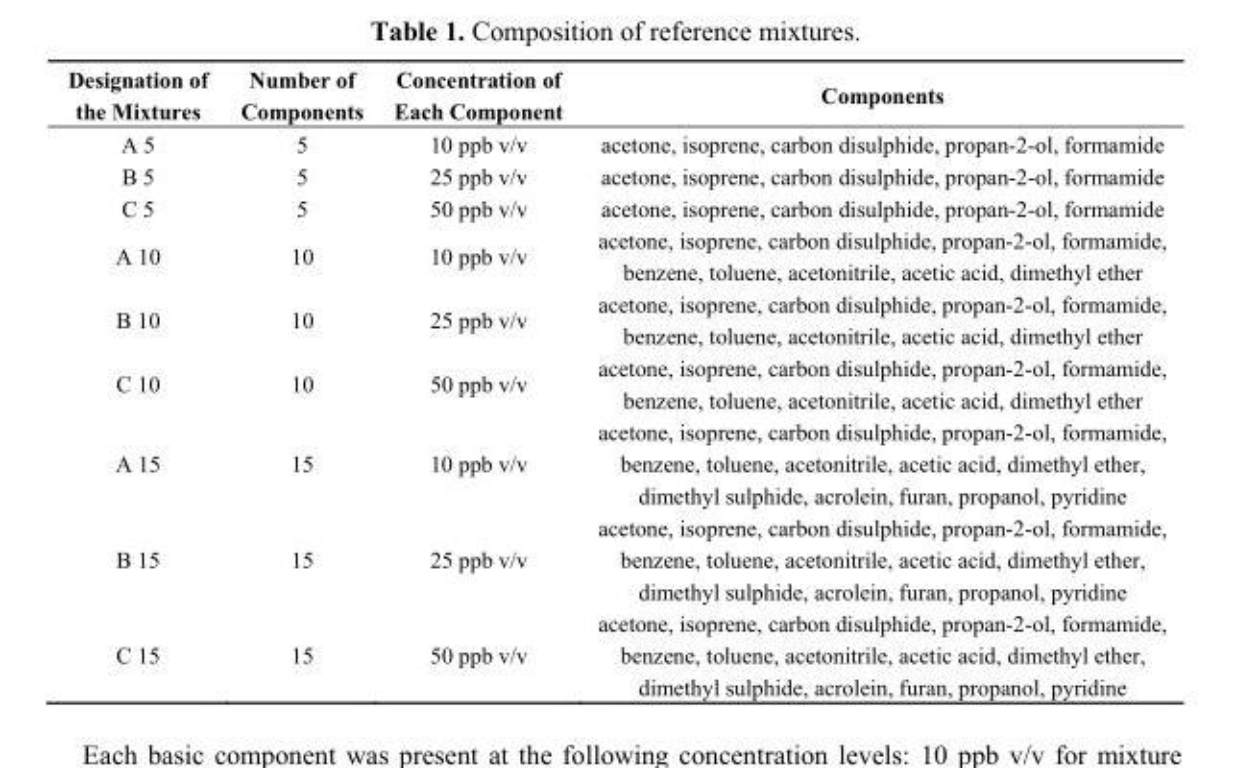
<table><thead><tr><td>Designation of the Mixtures</td><td>Number of Components</td><td>Concentration of Each Component</td><td>Components</td></tr></thead><tbody><tr><td>A 5</td><td>5</td><td>10 ppb v/v</td><td>acetone, isoprene, carbon disulphide, propan-2-ol, formamide</td></tr><tr><td>B 5</td><td>5</td><td>25 ppb v/v</td><td>acetone, isoprene, carbon disulphide, propan-2-ol, formamide</td></tr><tr><td>C 5</td><td>5</td><td>50 ppb v/v</td><td>acetone, isoprene, carbon disulphide, propan-2-ol, formamide</td></tr><tr><td>A 10</td><td>10</td><td>10 ppb v/v</td><td>acetone, isoprene, carbon disulphide, propan-2-ol, formamide, benzene, toluene, acetonitrile, acetic acid, dimethyl ether</td></tr><tr><td>B 10</td><td>10</td><td>25 ppb v/v</td><td>acetone, isoprene, carbon disulphide, propan-2-ol, formamide, benzene, toluene, acetonitrile, acetic acid, dimethyl ether</td></tr><tr><td>C 10</td><td>10</td><td>50 ppb v/v</td><td>acetone, isoprene, carbon disulphide, propan-2-ol, formamide, benzene, toluene, acetonitrile, acetic acid, dimethyl ether</td></tr><tr><td>A 15</td><td>15</td><td>10 ppb v/v</td><td>acetone, isoprene, carbon disulphide, propan-2-ol, formamide, benzene, toluene, acetonitrile, acetic acid, dimethyl ether, dimethyl sulphide, acrolein, furan, propanol, pyridine</td></tr><tr><td>B 15</td><td>15</td><td>25 ppb v/v</td><td>acetone, isoprene, carbon disulphide, propan-2-ol, formamide, benzene, toluene, acetonitrile, acetic acid, dimethyl ether, dimethyl sulphide, acrolein, furan, propanol, pyridine</td></tr><tr><td>C 15</td><td>15</td><td>50 ppb v/v</td><td>acetone, isoprene, carbon disulphide, propan-2-ol, formamide, benzene, toluene, acetonitrile, acetic acid, dimethyl ether, dimethyl sulphide, acrolein, furan, propanol, pyridine</td></tr></tbody></table>